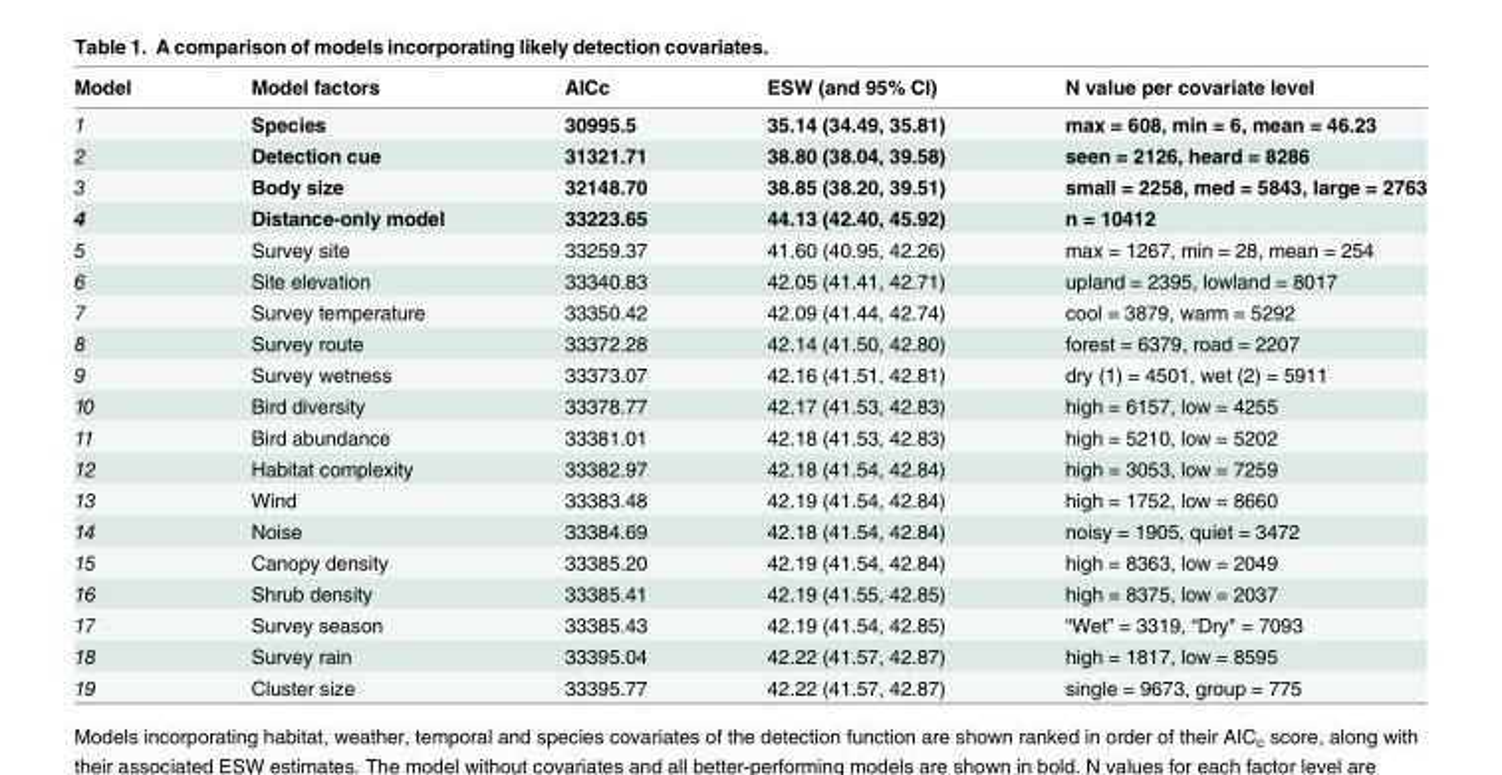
<table><thead><tr><td>Model</td><td>Model factors</td><td>AICc</td><td>ESW (and 95% CI)</td><td>N value per covariate level</td></tr></thead><tbody><tr><td>1</td><td>Species</td><td>30995.5</td><td>35.14 (34.49, 35.81)</td><td>max = 608, min = 6, mean = 46.23</td></tr><tr><td>2</td><td>Detection cue</td><td>31321.71</td><td>38.80 (38.04, 39.58)</td><td>seen = 2126, heard = 8286</td></tr><tr><td>3</td><td>Body size</td><td>32148.70</td><td>38.85 (38.20, 39.51)</td><td>small = 2258, med = 5843, large = 2763</td></tr><tr><td>4</td><td>Distance-only model</td><td>33223.65</td><td>44.13 (42.40, 45.92)</td><td>n = 10412</td></tr><tr><td>5</td><td>Survey site</td><td>33259.37</td><td>41.60 (40.95, 42.26)</td><td>max = 1267, min = 28, mean = 254</td></tr><tr><td>6</td><td>Site elevation</td><td>33340.83</td><td>42.05 (41.41, 42.71)</td><td>upland = 2395, lowland = 8017</td></tr><tr><td>7</td><td>Survey temperature</td><td>33350.42</td><td>42.09 (41.44, 42.74)</td><td>cool = 3879, warm = 5292</td></tr><tr><td>8</td><td>Survey route</td><td>33372.28</td><td>42.14 (41.50, 42.80)</td><td>forest = 6379, road = 2207</td></tr><tr><td>9</td><td>Survey wetness</td><td>33373.07</td><td>42.16 (41.51, 42.81)</td><td>dry (1) = 4501, wet (2) = 5911</td></tr><tr><td>10</td><td>Bird diversity</td><td>33378.77</td><td>42.17 (41.53, 42.83)</td><td>high = 6157, low = 4255</td></tr><tr><td>11</td><td>Bird abundance</td><td>33381.01</td><td>42.18 (41.53, 42.83)</td><td>high = 5210, low = 5202</td></tr><tr><td>12</td><td>Habitat complexity</td><td>33382.97</td><td>42.18 (41.54, 42.84)</td><td>high = 3053, low = 7259</td></tr><tr><td>13</td><td>Wind</td><td>33383.48</td><td>42.19 (41.54, 42.84)</td><td>high = 1752, low = 8660</td></tr><tr><td>14</td><td>Noise</td><td>33384.69</td><td>42.18 (41.54, 42.84)</td><td>noisy = 1905, quiet = 3472</td></tr><tr><td>15</td><td>Canopy density</td><td>33385.20</td><td>42.19 (41.54, 42.84)</td><td>high = 8363, low = 2049</td></tr><tr><td>16</td><td>Shrub density</td><td>33385.41</td><td>42.19 (41.55, 42.85)</td><td>high = 8375, low = 2037</td></tr><tr><td>17</td><td>Survey season</td><td>33385.43</td><td>42.19 (41.54, 42.85)</td><td>“Wet” = 3319, “Dry&quot; = 7093</td></tr><tr><td>18</td><td>Survey rain</td><td>33395.04</td><td>42.22 (41.57, 42.87)</td><td>high = 1817, low = 8595</td></tr><tr><td>19</td><td>Cluster size</td><td>33395.77</td><td>42.22 (41.57, 42.87)</td><td>single = 9673, group = 775</td></tr></tbody></table>